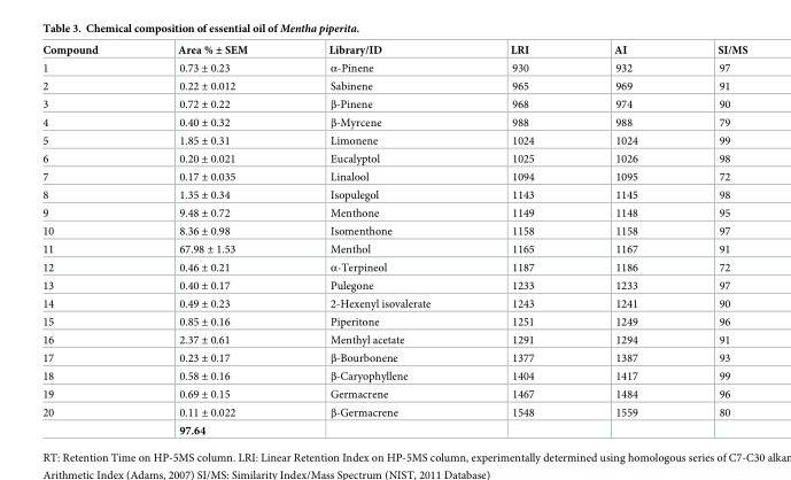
<table><thead><tr><td>Compound</td><td>Area % ± SEM</td><td>Library/ID</td><td>LRI</td><td>AI</td><td>SI/MS</td></tr></thead><tbody><tr><td>1</td><td>0.73 ± 0.23</td><td>α-Pinene</td><td>930</td><td>932</td><td>97</td></tr><tr><td>2</td><td>0.22 ± 0.012</td><td>Sabinene</td><td>965</td><td>969</td><td>91</td></tr><tr><td>3</td><td>0.72 ± 0.22</td><td>β-Pinene</td><td>968</td><td>974</td><td>90</td></tr><tr><td>4</td><td>0.40 ± 0.32</td><td>β-Myrcene</td><td>988</td><td>988</td><td>79</td></tr><tr><td>5</td><td>1.85 ± 0.31</td><td>Limonene</td><td>1024</td><td>1024</td><td>99</td></tr><tr><td>6</td><td>0.20 ± 0.021</td><td>Eucalyptol</td><td>1025</td><td>1026</td><td>98</td></tr><tr><td>7</td><td>0.17 ± 0.035</td><td>Linalool</td><td>1094</td><td>1095</td><td>72</td></tr><tr><td>8</td><td>1.35 ± 0.34</td><td>Isopulegol</td><td>1143</td><td>1145</td><td>98</td></tr><tr><td>9</td><td>9.48 ± 0.72</td><td>Menthone</td><td>1149</td><td>1148</td><td>95</td></tr><tr><td>10</td><td>8.36 ± 0.98</td><td>Isomenthone</td><td>1158</td><td>1158</td><td>97</td></tr><tr><td>11</td><td>67.98 ± 1.53</td><td>Menthol</td><td>1165</td><td>1167</td><td>91</td></tr><tr><td>12</td><td>0.46 ± 0.21</td><td>α-Terpineol</td><td>1187</td><td>1186</td><td>72</td></tr><tr><td>13</td><td>0.40 ± 0.17</td><td>Pulegone</td><td>1233</td><td>1233</td><td>97</td></tr><tr><td>14</td><td>0.49 ± 0.23</td><td>2-Hexenyl isovalerate</td><td>1243</td><td>1241</td><td>90</td></tr><tr><td>15</td><td>0.85 ± 0.16</td><td>Piperitone</td><td>1251</td><td>1249</td><td>96</td></tr><tr><td>16</td><td>2.37 ± 0.61</td><td>Menthyl acetate</td><td>1291</td><td>1294</td><td>91</td></tr><tr><td>17</td><td>0.23 ± 0.17</td><td>β-Bourbonene</td><td>1377</td><td>1387</td><td>93</td></tr><tr><td>18</td><td>0.58 ± 0.16</td><td>β-Caryophyllene</td><td>1404</td><td>1417</td><td>99</td></tr><tr><td>19</td><td>0.69 ± 0.15</td><td>Germacrene</td><td>1467</td><td>1484</td><td>96</td></tr><tr><td rowspan="2">20</td><td>0.11 ± 0.022</td><td>β-Germacrene</td><td>1548</td><td>1559</td><td>80</td></tr><tr><td>97.64</td><td></td><td></td><td></td><td></td></tr></tbody></table>